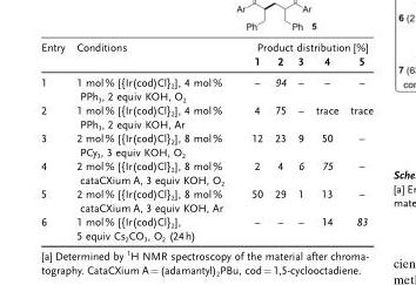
<table><thead><tr><td rowspan="2">Entry</td><td rowspan="2">Conditions</td><td colspan="5">Product distribution [%]</td></tr><tr><td>1</td><td>2</td><td>3</td><td>4</td><td>5</td></tr></thead><tbody><tr><td>1</td><td>1 mol% [{Ir(cod)Cl}<sub>2</sub>], 4 mol% PPh<sub>3</sub>, 2 equiv KOH, O<sub>2</sub></td><td>–</td><td>94</td><td>–</td><td>–</td><td>–</td></tr><tr><td>2</td><td>1 mol% [{Ir(cod)Cl}<sub>2</sub>], 4 mol% PPh<sub>3</sub>, 2 equiv KOH, Ar</td><td>4</td><td>75</td><td>–</td><td>trace</td><td>trace</td></tr><tr><td>3</td><td>2 mol% [{Ir(cod)Cl}<sub>2</sub>], 8 mol% PCy<sub>3</sub>, 3 equiv KOH, O<sub>2</sub></td><td>12</td><td>23</td><td>9</td><td>50</td><td>–</td></tr><tr><td>4</td><td>2 mol% [{Ir(cod)Cl}<sub>2</sub>], 8 mol% cataCXium A, 3 equiv KOH, O<sub>2</sub></td><td>2</td><td>4</td><td>6</td><td>75</td><td>–</td></tr><tr><td>5</td><td>2 mol% [{Ir(cod)Cl}<sub>2</sub>], 8 mol% cataCXium A, 3 equiv KOH, Ar</td><td>50</td><td>29</td><td>1</td><td>13</td><td>–</td></tr><tr><td>6</td><td>1 mol% [{Ir(cod)Cl}<sub>2</sub>], 5 equiv Cs<sub>2</sub>CO<sub>3</sub>, O<sub>2</sub> (24h)</td><td>–</td><td>–</td><td>–</td><td>14</td><td>83</td></tr></tbody></table>